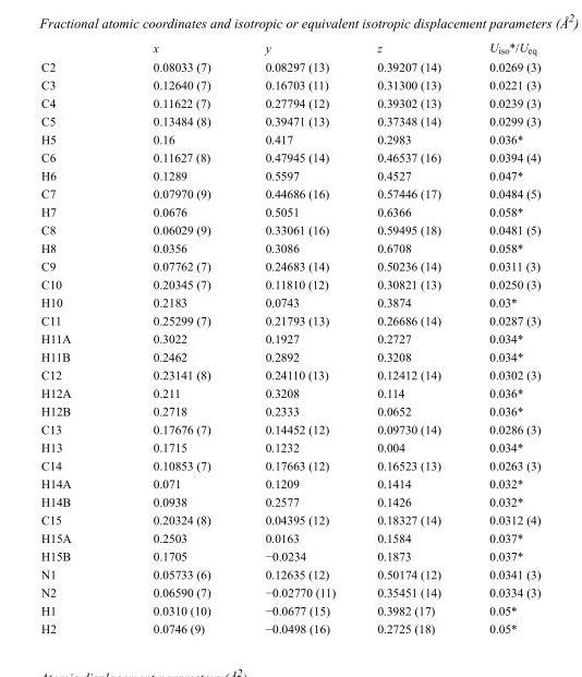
<table><thead><tr><td></td><td>x</td><td>y</td><td>z</td><td>U<sub>iso</sub>*/U<sub>eq</sub></td></tr></thead><tbody><tr><td>C2</td><td>0.08033 (7)</td><td>0.08297 (13)</td><td>0.39207 (14)</td><td>0.0269 (3)</td></tr><tr><td>C3</td><td>0.12640 (7)</td><td>0.16703 (11)</td><td>0.31300 (13)</td><td>0.0221 (3)</td></tr><tr><td>C4</td><td>0.11622 (7)</td><td>0.27794 (12)</td><td>0.39302 (13)</td><td>0.0239 (3)</td></tr><tr><td>C5</td><td>0.13484 (8)</td><td>0.39471 (13)</td><td>0.37348 (14)</td><td>0.0299 (3)</td></tr><tr><td>H5</td><td>0.16</td><td>0.417</td><td>0.2983</td><td>0.036*</td></tr><tr><td>C6</td><td>0.11627 (8)</td><td>0.47945 (14)</td><td>0.46537 (16)</td><td>0.0394 (4)</td></tr><tr><td>H6</td><td>0.1289</td><td>0.5597</td><td>0.4527</td><td>0.047*</td></tr><tr><td>C7</td><td>0.07970 (9)</td><td>0.44686 (16)</td><td>0.57446 (17)</td><td>0.0484 (5)</td></tr><tr><td>H7</td><td>0.0676</td><td>0.5051</td><td>0.6366</td><td>0.058*</td></tr><tr><td>C8</td><td>0.06029 (9)</td><td>0.33061 (16)</td><td>0.59495 (18)</td><td>0.0481 (5)</td></tr><tr><td>H8</td><td>0.0356</td><td>0.3086</td><td>0.6708</td><td>0.058*</td></tr><tr><td>C9</td><td>0.07762 (7)</td><td>0.24683 (14)</td><td>0.50236 (14)</td><td>0.0311 (3)</td></tr><tr><td>C10</td><td>0.20345 (7)</td><td>0.11810 (12)</td><td>0.30821 (13)</td><td>0.0250 (3)</td></tr><tr><td>H10</td><td>0.2183</td><td>0.0743</td><td>0.3874</td><td>0.03*</td></tr><tr><td>C11</td><td>0.25299 (7)</td><td>0.21793 (13)</td><td>0.26686 (14)</td><td>0.0287 (3)</td></tr><tr><td>H11A</td><td>0.3022</td><td>0.1927</td><td>0.2727</td><td>0.034*</td></tr><tr><td>H11B</td><td>0.2462</td><td>0.2892</td><td>0.3208</td><td>0.034*</td></tr><tr><td>C12</td><td>0.23141 (8)</td><td>0.24110 (13)</td><td>0.12412 (14)</td><td>0.0302 (3)</td></tr><tr><td>H12A</td><td>0.211</td><td>0.3208</td><td>0.114</td><td>0.036*</td></tr><tr><td>H12B</td><td>0.2718</td><td>0.2333</td><td>0.0652</td><td>0.036*</td></tr><tr><td>C13</td><td>0.17676 (7)</td><td>0.14452 (12)</td><td>0.09730 (14)</td><td>0.0286 (3)</td></tr><tr><td>H13</td><td>0.1715</td><td>0.1232</td><td>0.004</td><td>0.034*</td></tr><tr><td>C14</td><td>0.10853 (7)</td><td>0.17663 (12)</td><td>0.16523 (13)</td><td>0.0263 (3)</td></tr><tr><td>H14A</td><td>0.071</td><td>0.1209</td><td>0.1414</td><td>0.032*</td></tr><tr><td>H14B</td><td>0.0938</td><td>0.2577</td><td>0.1426</td><td>0.032*</td></tr><tr><td>C15</td><td>0.20324 (8)</td><td>0.04395 (12)</td><td>0.18327 (14)</td><td>0.0312 (4)</td></tr><tr><td>H15A</td><td>0.2503</td><td>0.0163</td><td>0.1584</td><td>0.037*</td></tr><tr><td>H15B</td><td>0.1705</td><td>−0.0234</td><td>0.1873</td><td>0.037*</td></tr><tr><td>N1</td><td>0.05733 (6)</td><td>0.12635 (12)</td><td>0.50174 (12)</td><td>0.0341 (3)</td></tr><tr><td>N2</td><td>0.06590 (7)</td><td>−0.02770 (11)</td><td>0.35451 (14)</td><td>0.0334 (3)</td></tr><tr><td>H1</td><td>0.0310 (10)</td><td>−0.0677 (15)</td><td>0.3982 (17)</td><td>0.05*</td></tr><tr><td>H2</td><td>0.0746 (9)</td><td>−0.0498 (16)</td><td>0.2725 (18)</td><td>0.05*</td></tr></tbody></table>